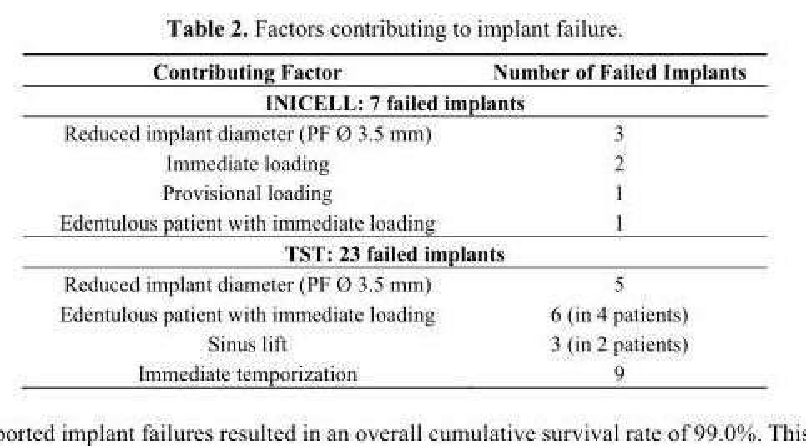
<table><thead><tr><td>Contributing Factor</td><td>Number of Failed Implants</td></tr></thead><tbody><tr><td colspan="2">INICELL: 7 failed implants</td></tr><tr><td>Reduced implant diameter (PF Ø 3.5 mm)</td><td>3</td></tr><tr><td>Immediate loading</td><td>2</td></tr><tr><td>Provisional loading</td><td>1</td></tr><tr><td>Edentulous patient with immediate loading</td><td>1</td></tr><tr><td colspan="2">TST: 23 failed implants</td></tr><tr><td>Reduced implant diameter (PF Ø 3.5 mm)</td><td>5</td></tr><tr><td>Edentulous patient with immediate loading</td><td>6 (in 4 patients)</td></tr><tr><td>Sinus lift</td><td>3 (in 2 patients)</td></tr><tr><td>Immediate temporization</td><td>9</td></tr></tbody></table>